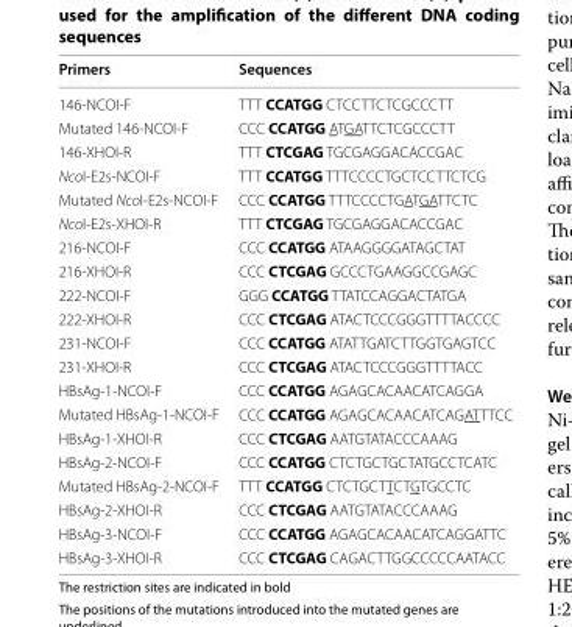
<table><thead><tr><td>Primers</td><td>Sequences</td></tr></thead><tbody><tr><td>146-NCOI-F</td><td>TTT CCATGG CTCCTTCTCGCCCTT</td></tr><tr><td>Mutated 146-NCOI-F</td><td>CCC CCATGG ATGATTCTCGCCCTT</td></tr><tr><td>146-XHOI-R</td><td>TTT CTCGAG TGCGAGGACACCGAC</td></tr><tr><td>NcoI-E2s-NCOI-F</td><td>TTT CCATGG TTTCCCCTGCTCCTTCTCG</td></tr><tr><td>Mutated NcoI-E2s-NCOI-F</td><td>CCC CCATGG TTTCCCCTGATGATTCTC</td></tr><tr><td>NcoI-E2s-XHOI-R</td><td>TTT CTCGAG TGCGAGGACACCGAC</td></tr><tr><td>216-NCOI-F</td><td>CCC CCATGG ATAAGGGGATAGCTAT</td></tr><tr><td>216-XHOI-R</td><td>CCC CTCGAG GCCCTGAAGGCCGAGC</td></tr><tr><td>222-NCOI-F</td><td>GGG CCATGG TTATCCAGGACTATGA</td></tr><tr><td>222-XHOI-R</td><td>CCC CTCGAG ATACTCCCGGGTTTTACCCC</td></tr><tr><td>231-NCOI-F</td><td>CCC CCATGG ATATTGATCTTGGTGAGTCC</td></tr><tr><td>231-XHOI-R</td><td>CCC CTCGAG ATACTCCCGGGTTTTACC</td></tr><tr><td>HBsAg-1-NCOI-F</td><td>CCC CCATGG AGAGCACAACATCAGGA</td></tr><tr><td>Mutated HBsAg-1-NCOI-F</td><td>CCC CCATGG AGAGCACAACATCAGATTTCC</td></tr><tr><td>HBsAg-1-XHOI-R</td><td>CCC CTCGAG AATGTATACCCAAAG</td></tr><tr><td>HBsAg-2-NCOI-F</td><td>CCC CCATGG CTCTGCTGCTATGCCTCATC</td></tr><tr><td>Mutated HBsAg-2-NCOI-F</td><td>TTT CCATGG CTCTGCTTCTGTGCCTC</td></tr><tr><td>HBsAg-2-XHOI-R</td><td>CCC CTCGAG AATGTATACCCAAAG</td></tr><tr><td>HBsAg-3-NCOI-F</td><td>CCC CCATGG AGAGCACAACATCAGGATTC</td></tr><tr><td>HBsAg-3-XHOI-R</td><td>CCC CTCGAG CAGACTTGGCCCCCAATACC</td></tr></tbody></table>